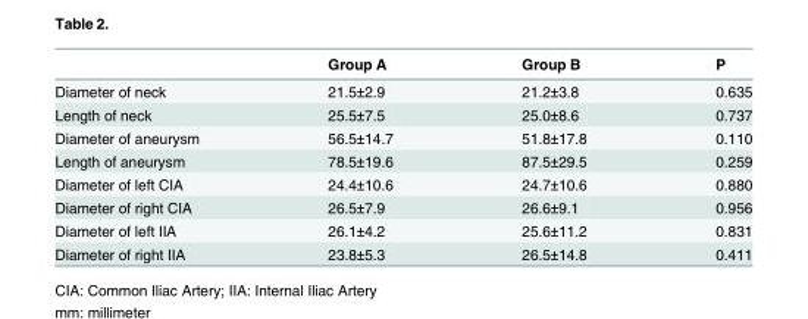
<table><thead><tr><td></td><td>Group A</td><td>Group B</td><td>P</td></tr></thead><tbody><tr><td>Diameter of neck</td><td>21.5±2.9</td><td>21.2±3.8</td><td>0.635</td></tr><tr><td>Length of neck</td><td>25.5±7.5</td><td>25.0±8.6</td><td>0.737</td></tr><tr><td>Diameter of aneurysm</td><td>56.5±14.7</td><td>51.8±17.8</td><td>0.110</td></tr><tr><td>Length of aneurysm</td><td>78.5±19.6</td><td>87.5±29.5</td><td>0.259</td></tr><tr><td>Diameter of left CIA</td><td>24.4±10.6</td><td>24.7±10.6</td><td>0.880</td></tr><tr><td>Diameter of right CIA</td><td>26.5±7.9</td><td>26.6±9.1</td><td>0.956</td></tr><tr><td>Diameter of left IIA</td><td>26.1±4.2</td><td>25.6±11.2</td><td>0.831</td></tr><tr><td>Diameter of right IIA</td><td>23.8±5.3</td><td>26.5±14.8</td><td>0.411</td></tr></tbody></table>